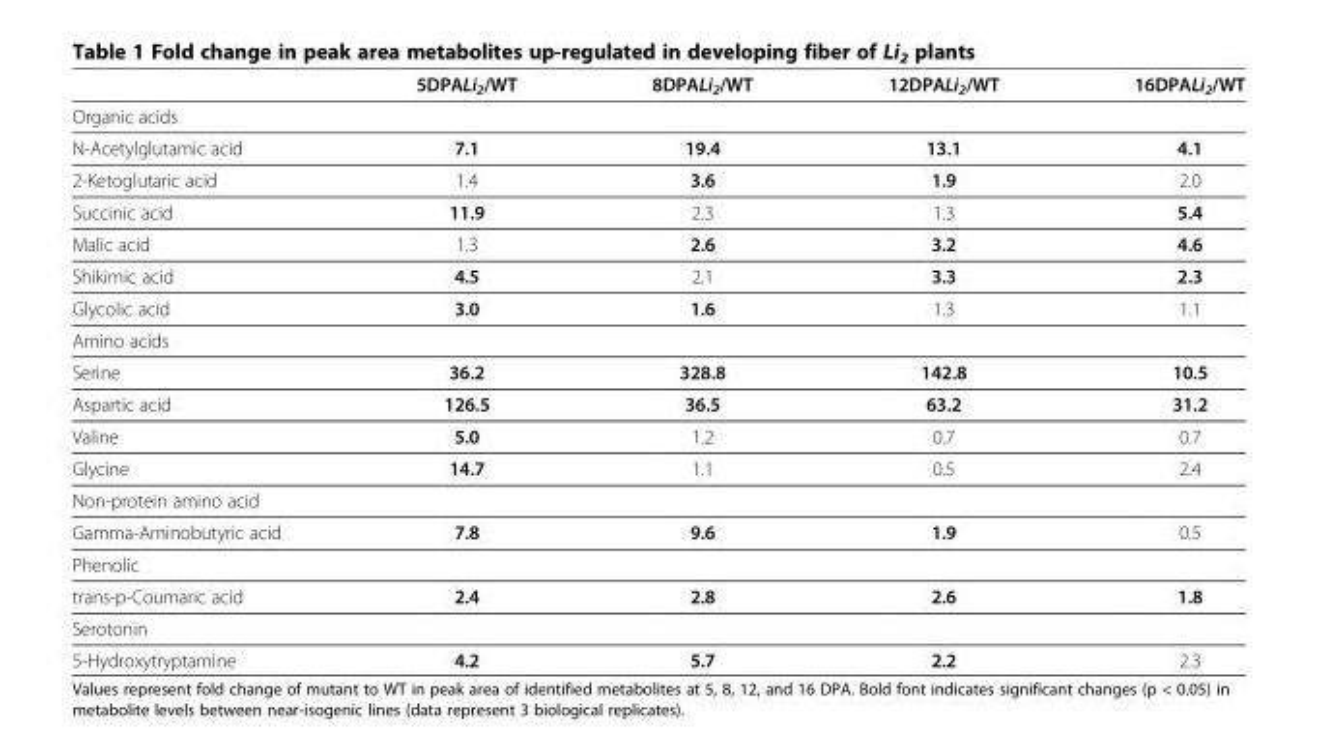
<table><thead><tr><td></td><td>5DPALi<sub>2</sub>/WT</td><td>8DPALi<sub>2</sub>/WT</td><td>12DPALi<sub>2</sub>/WT</td><td>16DPALi<sub>2</sub>/WT</td></tr></thead><tbody><tr><td colspan="5">Organic acids</td></tr><tr><td>N-Acetylglutamic acid</td><td>7.1</td><td>19.4</td><td>13.1</td><td>4.1</td></tr><tr><td>2-Ketoglutaric acid</td><td>1.4</td><td>3.6</td><td>1.9</td><td>2.0</td></tr><tr><td>Succinic acid</td><td>11.9</td><td>2.3</td><td>1.3</td><td>5.4</td></tr><tr><td>Malic acid</td><td>1.3</td><td>2.6</td><td>3.2</td><td>4.6</td></tr><tr><td>Shikimic acid</td><td>4.5</td><td>2.1</td><td>3.3</td><td>2.3</td></tr><tr><td>Glycolic acid</td><td>3.0</td><td>1.6</td><td>1.3</td><td>1.1</td></tr><tr><td colspan="5">Amino acids</td></tr><tr><td>Serine</td><td>36.2</td><td>328.8</td><td>142.8</td><td>10.5</td></tr><tr><td>Aspartic acid</td><td>126.5</td><td>36.5</td><td>63.2</td><td>31.2</td></tr><tr><td>Valine</td><td>5.0</td><td>1.2</td><td>0.7</td><td>0.7</td></tr><tr><td>Glycine</td><td>14.7</td><td>1.1</td><td>0.5</td><td>2.4</td></tr><tr><td colspan="5">Non-protein amino acid</td></tr><tr><td>Gamma-Aminobutyric acid</td><td>7.8</td><td>9.6</td><td>1.9</td><td>0.5</td></tr><tr><td colspan="5">Phenolic</td></tr><tr><td>trans-p-Coumaric acid</td><td>2.4</td><td>2.8</td><td>2.6</td><td>1.8</td></tr><tr><td colspan="5">Serotonin</td></tr><tr><td>5-Hydroxytryptamine</td><td>4.2</td><td>5.7</td><td>2.2</td><td>2.3</td></tr></tbody></table>